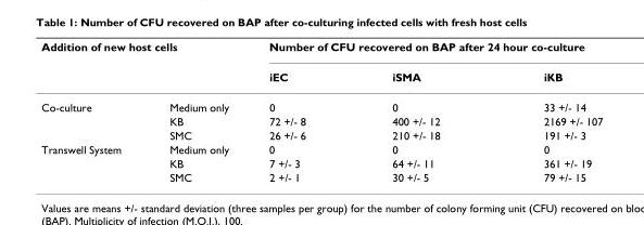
<table><thead><tr><td colspan="2">Addition of new host cells</td><td colspan="3">Number of CFU recovered on BAP after 24 hour co-culture</td></tr><tr><td></td><td></td><td>iEC</td><td>iSMA</td><td>iKB</td></tr></thead><tbody><tr><td rowspan="3">Co-culture</td><td>Medium only</td><td>0</td><td>0</td><td>33 +/- 14</td></tr><tr><td>KB</td><td>72 +/- 8</td><td>400 +/- 12</td><td>2169 +/- 107</td></tr><tr><td>SMC</td><td>26 +/- 6</td><td>210 +/- 18</td><td>191 +/- 3</td></tr><tr><td rowspan="3">Transwell System</td><td>Medium only</td><td>0</td><td>0</td><td>0</td></tr><tr><td>KB</td><td>7 +/- 3</td><td>64 +/- 11</td><td>361 +/- 19</td></tr><tr><td>SMC</td><td>2 +/- 1</td><td>30 +/- 5</td><td>79 +/- 15</td></tr></tbody></table>